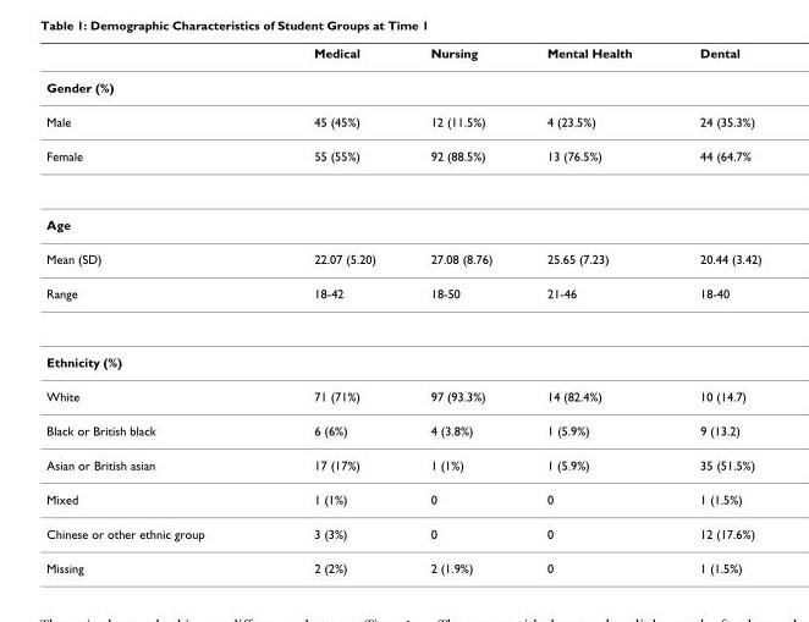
<table><thead><tr><td></td><td>Medical</td><td>Nursing</td><td>Mental Health</td><td>Dental</td></tr></thead><tbody><tr><td colspan="5">Gender (%)</td></tr><tr><td>Male</td><td>45 (45%)</td><td>12 (11.5%)</td><td>4 (23.5%)</td><td>24 (35.3%)</td></tr><tr><td>Female</td><td>55 (55%)</td><td>92 (88.5%)</td><td>13 (76.5%)</td><td>44 (64.7%</td></tr><tr><td colspan="5">Age</td></tr><tr><td>Mean (SD)</td><td>22.07 (5.20)</td><td>27.08 (8.76)</td><td>25.65 (7.23)</td><td>20.44 (3.42)</td></tr><tr><td>Range</td><td>18-42</td><td>18-50</td><td>21-46</td><td>18-40</td></tr><tr><td colspan="5">Ethnicity (%)</td></tr><tr><td>White</td><td>71 (71%)</td><td>97 (93.3%)</td><td>14 (82.4%)</td><td>10 (14.7)</td></tr><tr><td>Black or British black</td><td>6 (6%)</td><td>4 (3.8%)</td><td>1 (5.9%)</td><td>9 (13.2)</td></tr><tr><td>Asian or British asian</td><td>17 (17%)</td><td>1 (1%)</td><td>1 (5.9%)</td><td>35 (51.5%)</td></tr><tr><td>Mixed</td><td>1 (1%)</td><td>0</td><td>0</td><td>1 (1.5%)</td></tr><tr><td>Chinese or other ethnic group</td><td>3 (3%)</td><td>0</td><td>0</td><td>12 (17.6%)</td></tr><tr><td>Missing</td><td>2 (2%)</td><td>2 (1.9%)</td><td>0</td><td>1 (1.5%)</td></tr></tbody></table>